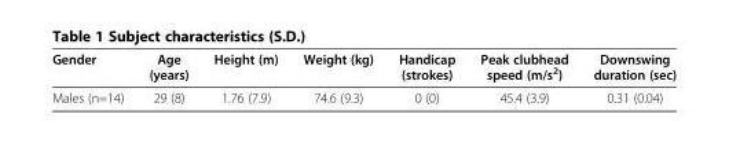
<table><thead><tr><td>Gender</td><td>Age (years)</td><td>Height (m)</td><td>Weight (kg)</td><td>Handicap (strokes)</td><td>Peak clubhead speed (m/s<sup>2</sup>)</td><td>Downswing duration (sec)</td></tr></thead><tbody><tr><td>Males (n=14)</td><td>29 (8)</td><td>1.76 (7.9)</td><td>74.6 (9.3)</td><td>0 (0)</td><td>45.4 (3.9)</td><td>0.31 (0.04)</td></tr></tbody></table>